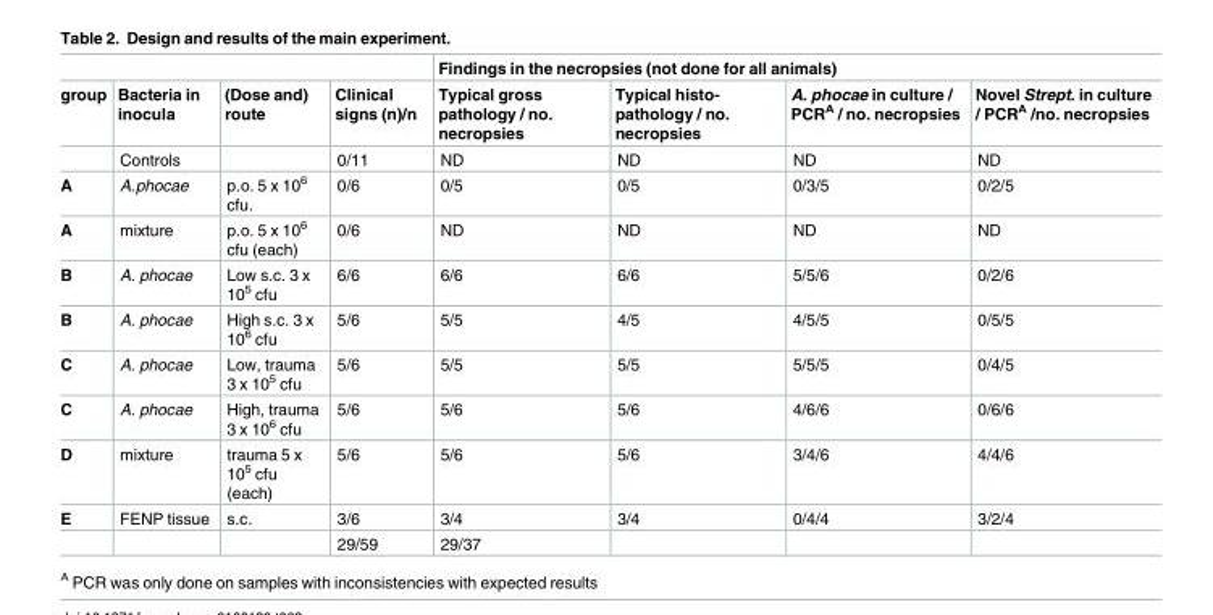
<table><thead><tr><td rowspan="2">group</td><td rowspan="2">Bacteria in inocula</td><td rowspan="2">(Dose and) route</td><td rowspan="2">Clinical signs (n)/n</td><td colspan="4">Findings in the necropsies (not done for all animals)</td></tr><tr><td>Typical gross pathology / no. necropsies</td><td>Typical histo- pathology / no. necropsies</td><td>A. phocae in culture / PCR<sup>A</sup> / no. necropsies</td><td>Novel Strept. in culture / PCR<sup>A</sup> /no. necropsies</td></tr></thead><tbody><tr><td></td><td>Controls</td><td></td><td>0/11</td><td>ND</td><td>ND</td><td>ND</td><td>ND</td></tr><tr><td>A</td><td>A.phocae</td><td>p.o. 5 x 10<sup>6</sup> cfu.</td><td>0/6</td><td>0/5</td><td>0/5</td><td>0/3/5</td><td>0/2/5</td></tr><tr><td>A</td><td>mixture</td><td>p.o. 5 x 10<sup>6</sup> cfu (each)</td><td>0/6</td><td>ND</td><td>ND</td><td>ND</td><td>ND</td></tr><tr><td>B</td><td>A. phocae</td><td>Low s.c. 3 x 10<sup>5</sup> cfu</td><td>6/6</td><td>6/6</td><td>6/6</td><td>5/5/6</td><td>0/2/6</td></tr><tr><td>B</td><td>A. phocae</td><td>High s.c. 3 x 10<sup>6</sup> cfu</td><td>5/6</td><td>5/5</td><td>4/5</td><td>4/5/5</td><td>0/5/5</td></tr><tr><td>C</td><td>A. phocae</td><td>Low, trauma 3 x 10<sup>5</sup> cfu</td><td>5/6</td><td>5/5</td><td>5/5</td><td>5/5/5</td><td>0/4/5</td></tr><tr><td>C</td><td>A. phocae</td><td>High, trauma 3 x 10<sup>6</sup> cfu</td><td>5/6</td><td>5/6</td><td>5/6</td><td>4/6/6</td><td>0/6/6</td></tr><tr><td>D</td><td>mixture</td><td>trauma 5 x 10<sup>5</sup> cfu (each)</td><td>5/6</td><td>5/6</td><td>5/6</td><td>3/4/6</td><td>4/4/6</td></tr><tr><td rowspan="2">E</td><td>FENP tissue</td><td>s.c.</td><td>3/6</td><td>3/4</td><td>3/4</td><td>0/4/4</td><td>3/2/4</td></tr><tr><td></td><td></td><td>29/59</td><td>29/37</td><td></td><td></td><td></td></tr></tbody></table>